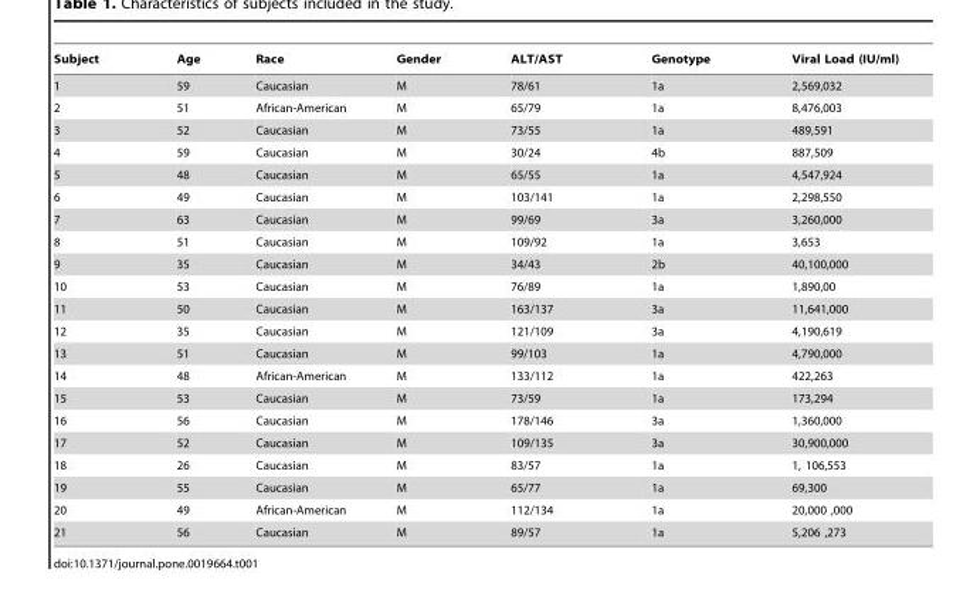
<table><thead><tr><td>Subject</td><td>Age</td><td>Race</td><td>Gender</td><td>ALT/AST</td><td>Genotype</td><td>Viral Load (IU/ml)</td></tr></thead><tbody><tr><td>1</td><td>59</td><td>Caucasian</td><td>M</td><td>78/61</td><td>1a</td><td>2,569,032</td></tr><tr><td>2</td><td>51</td><td>African-American</td><td>M</td><td>65/79</td><td>1a</td><td>8,476,003</td></tr><tr><td>3</td><td>52</td><td>Caucasian</td><td>M</td><td>73/55</td><td>1a</td><td>489,591</td></tr><tr><td>4</td><td>59</td><td>Caucasian</td><td>M</td><td>30/24</td><td>4b</td><td>887,509</td></tr><tr><td>5</td><td>48</td><td>Caucasian</td><td>M</td><td>65/55</td><td>1a</td><td>4,547,924</td></tr><tr><td>6</td><td>49</td><td>Caucasian</td><td>M</td><td>103/141</td><td>1a</td><td>2,298,550</td></tr><tr><td>7</td><td>63</td><td>Caucasian</td><td>M</td><td>99/69</td><td>3a</td><td>3,260,000</td></tr><tr><td>8</td><td>51</td><td>Caucasian</td><td>M</td><td>109/92</td><td>1a</td><td>3,653</td></tr><tr><td>9</td><td>35</td><td>Caucasian</td><td>M</td><td>34/43</td><td>2b</td><td>40,100,000</td></tr><tr><td>10</td><td>53</td><td>Caucasian</td><td>M</td><td>76/89</td><td>1a</td><td>1,890,00</td></tr><tr><td>11</td><td>50</td><td>Caucasian</td><td>M</td><td>163/137</td><td>3a</td><td>11,641,000</td></tr><tr><td>12</td><td>35</td><td>Caucasian</td><td>M</td><td>121/109</td><td>3a</td><td>4,190,619</td></tr><tr><td>13</td><td>51</td><td>Caucasian</td><td>M</td><td>99/103</td><td>1a</td><td>4,790,000</td></tr><tr><td>14</td><td>48</td><td>African-American</td><td>M</td><td>133/112</td><td>1a</td><td>422,263</td></tr><tr><td>15</td><td>53</td><td>Caucasian</td><td>M</td><td>73/59</td><td>1a</td><td>173,294</td></tr><tr><td>16</td><td>56</td><td>Caucasian</td><td>M</td><td>178/146</td><td>3a</td><td>1,360,000</td></tr><tr><td>17</td><td>52</td><td>Caucasian</td><td>M</td><td>109/135</td><td>3a</td><td>30,900,000</td></tr><tr><td>18</td><td>26</td><td>Caucasian</td><td>M</td><td>83/57</td><td>1a</td><td>1, 106,553</td></tr><tr><td>19</td><td>55</td><td>Caucasian</td><td>M</td><td>65/77</td><td>1a</td><td>69,300</td></tr><tr><td>20</td><td>49</td><td>African-American</td><td>M</td><td>112/134</td><td>1a</td><td>20,000 ,000</td></tr><tr><td>21</td><td>56</td><td>Caucasian</td><td>M</td><td>89/57</td><td>1a</td><td>5,206 ,273</td></tr></tbody></table>